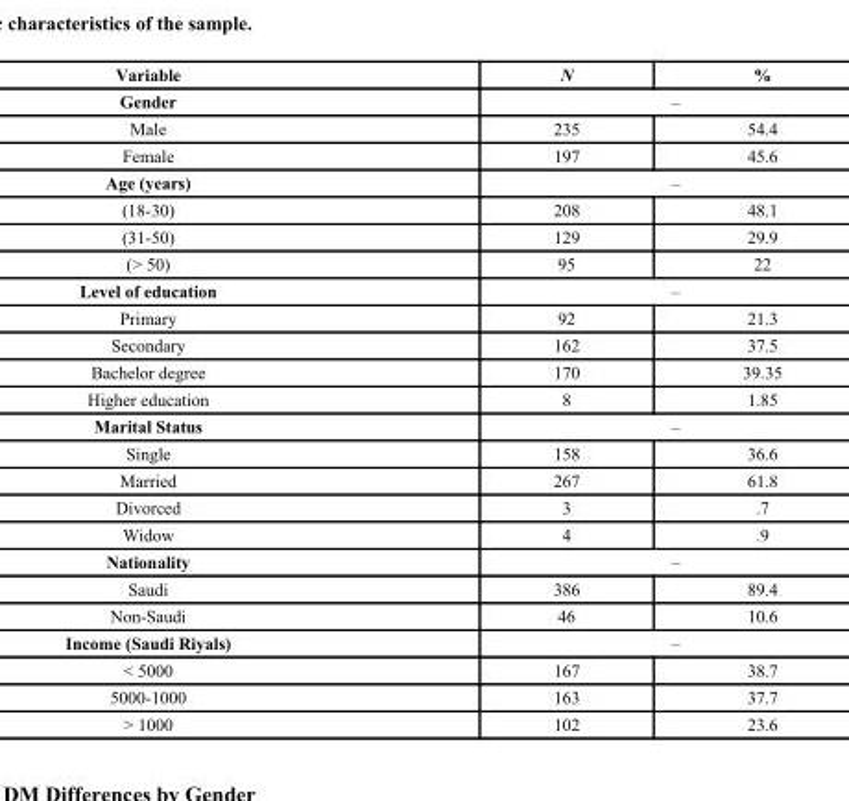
<table><thead><tr><td>Variable</td><td>N</td><td>%</td></tr></thead><tbody><tr><td>Gender</td><td colspan="2">–</td></tr><tr><td>Male</td><td>235</td><td>54.4</td></tr><tr><td>Female</td><td>197</td><td>45.6</td></tr><tr><td>Age (years)</td><td colspan="2">–</td></tr><tr><td>(18-30)</td><td>208</td><td>48.1</td></tr><tr><td>(31-50)</td><td>129</td><td>29.9</td></tr><tr><td>(&gt; 50)</td><td>95</td><td>22</td></tr><tr><td>Level of education</td><td colspan="2">–</td></tr><tr><td>Primary</td><td>92</td><td>21.3</td></tr><tr><td>Secondary</td><td>162</td><td>37.5</td></tr><tr><td>Bachelor degree</td><td>170</td><td>39.35</td></tr><tr><td>Higher education</td><td>8</td><td>1.85</td></tr><tr><td>Marital Status</td><td colspan="2">–</td></tr><tr><td>Single</td><td>158</td><td>36.6</td></tr><tr><td>Married</td><td>267</td><td>61.8</td></tr><tr><td>Divorced</td><td>3</td><td>.7</td></tr><tr><td>Widow</td><td>4</td><td>.9</td></tr><tr><td>Nationality</td><td colspan="2">–</td></tr><tr><td>Saudi</td><td>386</td><td>89.4</td></tr><tr><td>Non-Saudi</td><td>46</td><td>10.6</td></tr><tr><td>Income (Saudi Riyals)</td><td colspan="2">–</td></tr><tr><td>&lt; 5000</td><td>167</td><td>38.7</td></tr><tr><td>5000-1000</td><td>163</td><td>37.7</td></tr><tr><td>&gt; 1000</td><td>102</td><td>23.6</td></tr></tbody></table>